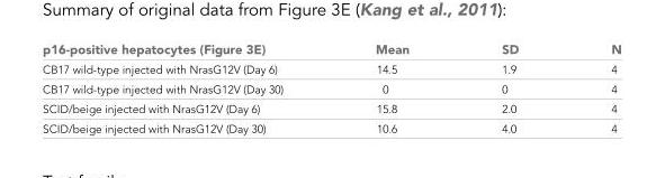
<table><thead><tr><td>p16-positive hepatocytes (Figure 3E)</td><td>Mean</td><td>SD</td><td>N</td></tr></thead><tbody><tr><td>CB17 wild-type injected with NrasG12V (Day 6)</td><td>14.5</td><td>1.9</td><td>4</td></tr><tr><td>CB17 wild-type injected with NrasG12V (Day 30)</td><td>0</td><td>0</td><td>4</td></tr><tr><td>SCID/beige injected with NrasG12V (Day 6)</td><td>15.8</td><td>2.0</td><td>4</td></tr><tr><td>SCID/beige injected with NrasG12V (Day 30)</td><td>10.6</td><td>4.0</td><td>4</td></tr></tbody></table>